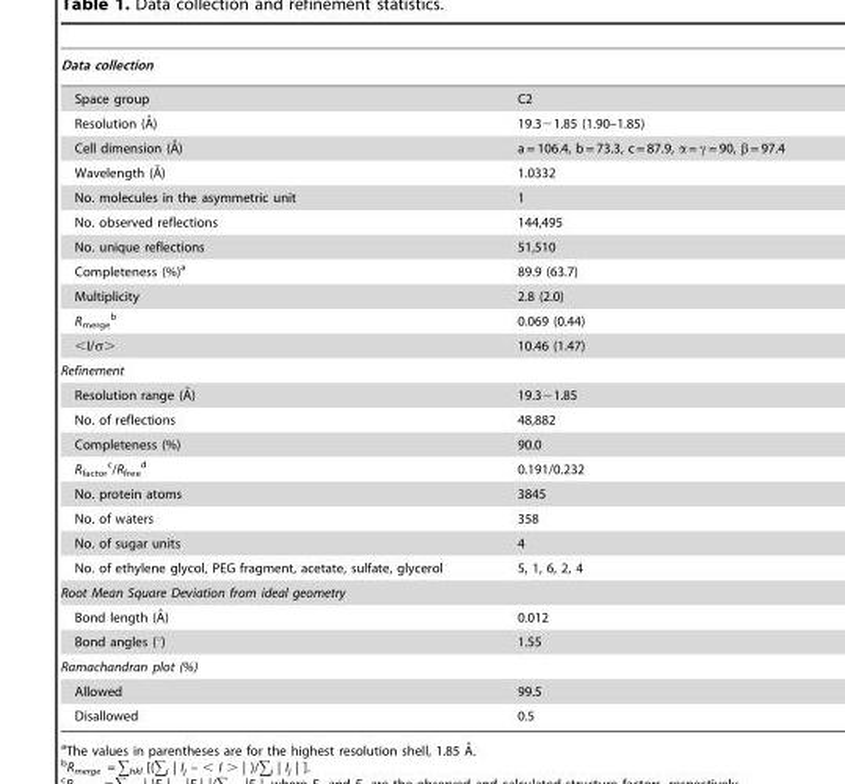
<table><thead><tr><td>Data collection</td><td></td></tr></thead><tbody><tr><td>Space group</td><td>C2</td></tr><tr><td>Resolution (A˚)</td><td>19.3−1.85 (1.90–1.85)</td></tr><tr><td>Cell dimension (A˚)</td><td>a = 106.4, b = 73.3, c = 87.9, α = γ = 90, β = 97.4</td></tr><tr><td>Wavelength (A˚)</td><td>1.0332</td></tr><tr><td>No. molecules in the asymmetric unit</td><td>1</td></tr><tr><td>No. observed reflections</td><td>144,495</td></tr><tr><td>No. unique reflections</td><td>51,510</td></tr><tr><td>Completeness (%)<sup>a</sup></td><td>89.9 (63.7)</td></tr><tr><td>Multiplicity</td><td>2.8 (2.0)</td></tr><tr><td>R<sub>merge</sub> b</td><td>0.069 (0.44)</td></tr><tr><td>&lt;I/σ&gt;</td><td>10.46 (1.47)</td></tr><tr><td colspan="2">Refinement</td></tr><tr><td>Resolution range (A˚)</td><td>19.3−1.85</td></tr><tr><td>No. of reflections</td><td>48,882</td></tr><tr><td>Completeness (%)</td><td>90.0</td></tr><tr><td>R<sub>factor</sub> c/R<sub>free</sub> d</td><td>0.191/0.232</td></tr><tr><td>No. protein atoms</td><td>3845</td></tr><tr><td>No. of waters</td><td>358</td></tr><tr><td>No. of sugar units</td><td>4</td></tr><tr><td>No. of ethylene glycol, PEG fragment, acetate, sulfate, glycerol</td><td>5, 1, 6, 2, 4</td></tr><tr><td colspan="2">Root Mean Square Deviation from ideal geometry</td></tr><tr><td>Bond length (A˚)</td><td>0.012</td></tr><tr><td>Bond angles (°)</td><td>1.55</td></tr><tr><td colspan="2">Ramachandran plot (%)</td></tr><tr><td>Allowed</td><td>99.5</td></tr><tr><td>Disallowed</td><td>0.5</td></tr></tbody></table>